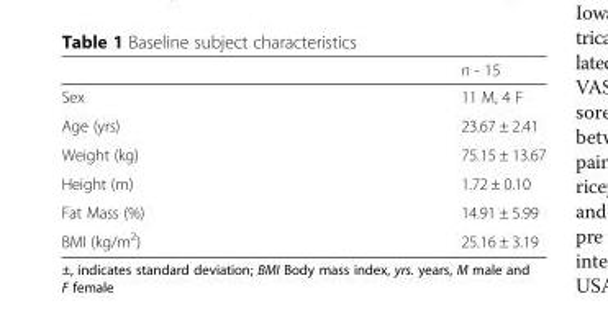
<table><thead><tr><td></td><td>n - 15</td></tr></thead><tbody><tr><td>Sex</td><td>11 M, 4 F</td></tr><tr><td>Age (yrs)</td><td>23.67 ± 2.41</td></tr><tr><td>Weight (kg)</td><td>75.15 ± 13.67</td></tr><tr><td>Height (m)</td><td>1.72 ± 0.10</td></tr><tr><td>Fat Mass (%)</td><td>14.91 ± 5.99</td></tr><tr><td>BMI (kg/m<sup>2</sup>)</td><td>25.16 ± 3.19</td></tr></tbody></table>